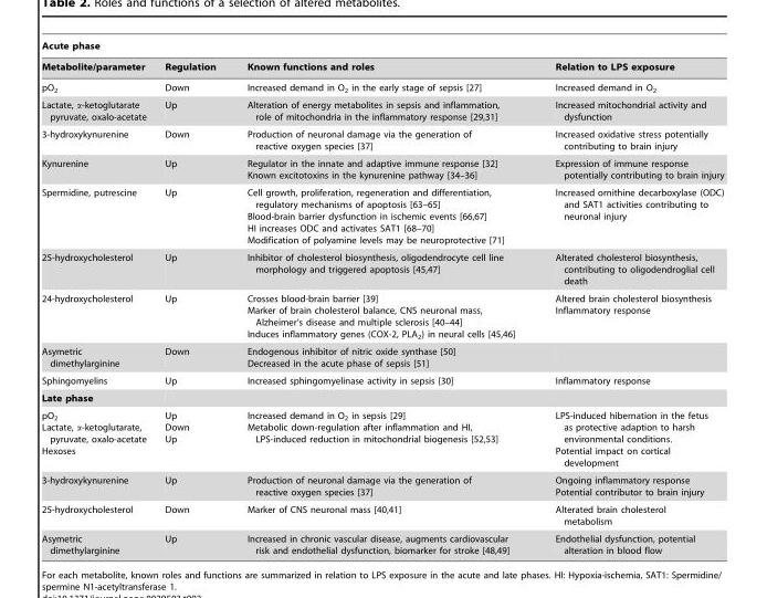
<table><thead><tr><td colspan="4">Acute phase</td></tr><tr><td>Metabolite/parameter</td><td>Regulation</td><td>Known functions and roles</td><td>Relation to LPS exposure</td></tr></thead><tbody><tr><td>pO<sub>2</sub></td><td>Down</td><td>Increased demand in O<sub>2</sub> in the early stage of sepsis [27]</td><td>Increased demand in O<sub>2</sub></td></tr><tr><td>Lactate, a-ketoglutarate pyruvate, oxalo-acetate</td><td>Up</td><td>Alteration of energy metabolites in sepsis and inflammation, role of mitochondria in the inflammatory response [29,31]</td><td>Increased mitochondrial activity and dysfunction</td></tr><tr><td>3-hydroxykynurenine</td><td>Down</td><td>Production of neuronal damage via the generation of reactive oxygen species [37]</td><td>Increased oxidative stress potentially contributing to brain injury</td></tr><tr><td>Kynurenine</td><td>Up</td><td>Regulator in the innate and adaptive immune response [32] Known excitotoxins in the kynurenine pathway [34–36]</td><td>Expression of immune response potentially contributing to brain injury</td></tr><tr><td>Spermidine, putrescine</td><td>Up</td><td>Cell growth, proliferation, regeneration and differentiation, regulatory mechanisms of apoptosis [63–65] Blood-brain barrier dysfunction in ischemic events [66,67] HI increases ODC and activates SAT1 [68–70] Modification of polyamine levels may be neuroprotective [71]</td><td>Increased ornithine decarboxylase (ODC) and SAT1 activities contributing to neuronal injury</td></tr><tr><td>25-hydroxycholesterol</td><td>Up</td><td>Inhibitor of cholesterol biosynthesis, oligodendrocyte cell line morphology and triggered apoptosis [45,47]</td><td>Alterated cholesterol biosynthesis, contributing to oligodendroglial cell death</td></tr><tr><td>24-hydroxycholesterol</td><td>Up</td><td>Crosses blood-brain barrier [39] Marker of brain cholesterol balance, CNS neuronal mass, Alzheimer’s disease and multiple sclerosis [40–44] Induces inflammatory genes (COX-2, PLA2) in neural cells [45,46]</td><td>Altered brain cholesterol biosynthesis Inflammatory response</td></tr><tr><td>Asymetric dimethylarginine</td><td>Down</td><td>Endogenous inhibitor of nitric oxide synthase [50] Decreased in the acute phase of sepsis [51]</td><td></td></tr><tr><td>Sphingomyelins</td><td>Up</td><td>Increased sphingomyelinase activity in sepsis [30]</td><td>Inflammatory response</td></tr><tr><td colspan="4">Late phase</td></tr><tr><td>pO2 Lactate, a-ketoglutarate, pyruvate, oxalo-acetate Hexoses</td><td>Up Down Up</td><td>Increased demand in O2 in sepsis [29] Metabolic down-regulation after inflammation and HI, LPS-induced reduction in mitochondrial biogenesis [52,53]</td><td>LPS-induced hibernation in the fetus as protective adaption to harsh environmental conditions. Potential impact on cortical development</td></tr><tr><td>3-hydroxykynurenine</td><td>Up</td><td>Production of neuronal damage via the generation of reactive oxygen species [37]</td><td>Ongoing inflammatory response Potential contributor to brain injury</td></tr><tr><td>25-hydroxycholesterol</td><td>Down</td><td>Marker of CNS neuronal mass [40,41]</td><td>Alterated brain cholesterol metabolism</td></tr><tr><td>Asymetric dimethylarginine</td><td>Up</td><td>Increased in chronic vascular disease, augments cardiovascular risk and endothelial dysfunction, biomarker for stroke [48,49]</td><td>Endothelial dysfunction, potential alteration in blood flow</td></tr></tbody></table>